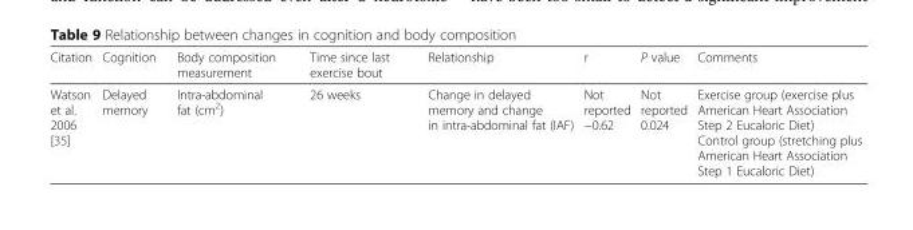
<table><thead><tr><td>Citation</td><td>Cognition</td><td>Body composition measurement</td><td>Time since last exercise bout</td><td>Relationship</td><td>r</td><td>P value</td><td>Comments</td></tr></thead><tbody><tr><td>Watson et al. 2006 [35]</td><td>Delayed memory</td><td>Intra-abdominal fat (cm<sup>2</sup>)</td><td>26 weeks</td><td>Change in delayed memory and change in intra-abdominal fat (IAF)</td><td>Not reported −0.62</td><td>Not reported 0.024</td><td>Exercise group (exercise plus American Heart Association Step 2 Eucaloric Diet) Control group (stretching plus American Heart Association Step 1 Eucaloric Diet)</td></tr></tbody></table>